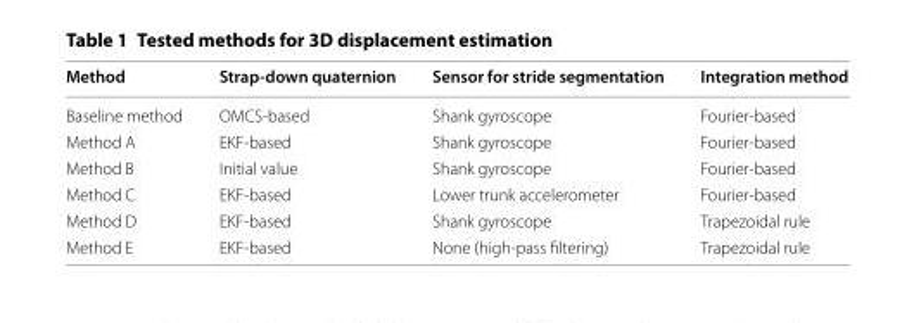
<table><thead><tr><td>Method</td><td>Strap-down quaternion</td><td>Sensor for stride segmentation</td><td>Integration method</td></tr></thead><tbody><tr><td>Baseline method</td><td>OMCS-based</td><td>Shank gyroscope</td><td>Fourier-based</td></tr><tr><td>Method A</td><td>EKF-based</td><td>Shank gyroscope</td><td>Fourier-based</td></tr><tr><td>Method B</td><td>Initial value</td><td>Shank gyroscope</td><td>Fourier-based</td></tr><tr><td>Method C</td><td>EKF-based</td><td>Lower trunk accelerometer</td><td>Fourier-based</td></tr><tr><td>Method D</td><td>EKF-based</td><td>Shank gyroscope</td><td>Trapezoidal rule</td></tr><tr><td>Method E</td><td>EKF-based</td><td>None (high-pass filtering)</td><td>Trapezoidal rule</td></tr></tbody></table>